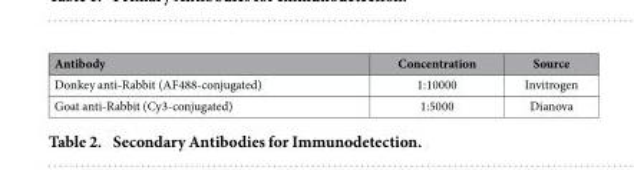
<table><thead><tr><td>Antibody</td><td>Concentration</td><td>Source</td></tr></thead><tbody><tr><td>Donkey anti-Rabbit (AF488-conjugated)</td><td>1:10000</td><td>Invitrogen</td></tr><tr><td>Goat anti-Rabbit (Cy3-conjugated)</td><td>1:5000</td><td>Dianova</td></tr></tbody></table>